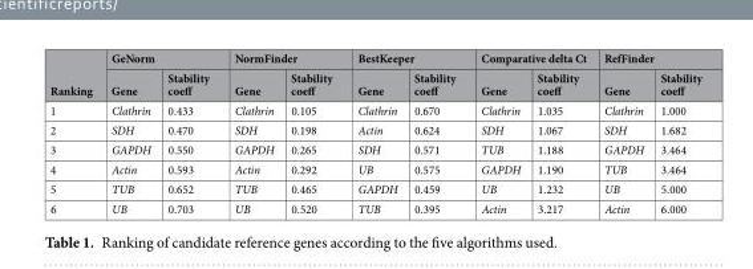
<table><thead><tr><td rowspan="2">Ranking</td><td colspan="2">GeNorm</td><td colspan="2">NormFinder</td><td colspan="2">BestKeeper</td><td colspan="2">Comparative delta Ct</td><td colspan="2">RefFinder</td></tr><tr><td>Gene</td><td>Stability coeff</td><td>Gene</td><td>Stability coeff</td><td>Gene</td><td>Stability coeff</td><td>Gene</td><td>Stability coeff</td><td>Gene</td><td>Stability coeff</td></tr></thead><tbody><tr><td>1</td><td>Clathrin</td><td>0.433</td><td>Clathrin</td><td>0.105</td><td>Clathrin</td><td>0.670</td><td>Clathrin</td><td>1.035</td><td>Clathrin</td><td>1.000</td></tr><tr><td>2</td><td>SDH</td><td>0.470</td><td>SDH</td><td>0.198</td><td>Actin</td><td>0.624</td><td>SDH</td><td>1.067</td><td>SDH</td><td>1.682</td></tr><tr><td>3</td><td>GAPDH</td><td>0.550</td><td>GAPDH</td><td>0.265</td><td>SDH</td><td>0.571</td><td>TUB</td><td>1.188</td><td>GAPDH</td><td>3.464</td></tr><tr><td>4</td><td>Actin</td><td>0.593</td><td>Actin</td><td>0.292</td><td>UB</td><td>0.575</td><td>GAPDH</td><td>1.190</td><td>TUB</td><td>3.464</td></tr><tr><td>5</td><td>TUB</td><td>0.652</td><td>TUB</td><td>0.465</td><td>GAPDH</td><td>0.459</td><td>UB</td><td>1.232</td><td>UB</td><td>5.000</td></tr><tr><td>6</td><td>UB</td><td>0.703</td><td>UB</td><td>0.520</td><td>TUB</td><td>0.395</td><td>Actin</td><td>3.217</td><td>Actin</td><td>6.000</td></tr></tbody></table>